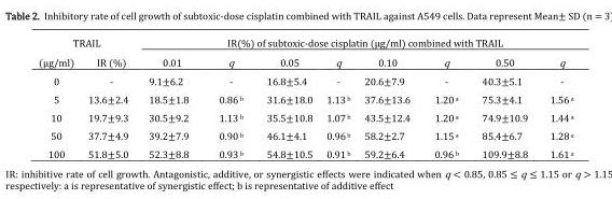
<table><thead><tr><td colspan="2">TRAIL</td><td colspan="8">IR(%) of subtoxic-dose cisplatin (µg/ml) combined with TRAIL</td></tr><tr><td>(µg/ml)</td><td>IR (%)</td><td>0.01</td><td>q</td><td>0.05</td><td>q</td><td>0.10</td><td>q</td><td>0.50</td><td>q</td></tr></thead><tbody><tr><td>0</td><td>-</td><td>9.1±6.2</td><td>-</td><td>16.8±5.4</td><td>-</td><td>20.6±7.9</td><td>-</td><td>40.3±5.1</td><td>-</td></tr><tr><td>5</td><td>13.6±2.4</td><td>18.5±1.8</td><td>0.86 <sup>b</sup></td><td>31.6±18.0</td><td>1.13 <sup>b</sup></td><td>37.6±13.6</td><td>1.20 <sup>a</sup></td><td>75.3±4.1</td><td>1.56 <sup>a</sup></td></tr><tr><td>10</td><td>19.7±9.3</td><td>30.5±9.2</td><td>1.13 <sup>b</sup></td><td>35.5±10.8</td><td>1.07 <sup>b</sup></td><td>43.5±12.4</td><td>1.20 <sup>a</sup></td><td>74.9±10.9</td><td>1.44 <sup>a</sup></td></tr><tr><td>50</td><td>37.7±4.9</td><td>39.2±7.9</td><td>0.90 <sup>b</sup></td><td>46.1±4.1</td><td>0.96 <sup>b</sup></td><td>58.2±2.7</td><td>1.15 <sup>a</sup></td><td>85.4±6.7</td><td>1.28 <sup>a</sup></td></tr><tr><td>100</td><td>51.8±5.0</td><td>52.3±8.8</td><td>0.93 <sup>b</sup></td><td>54.8±10.5</td><td>0.91 <sup>b</sup></td><td>59.2±6.4</td><td>0.96 <sup>b</sup></td><td>109.9±8.8</td><td>1.61 <sup>a</sup></td></tr></tbody></table>